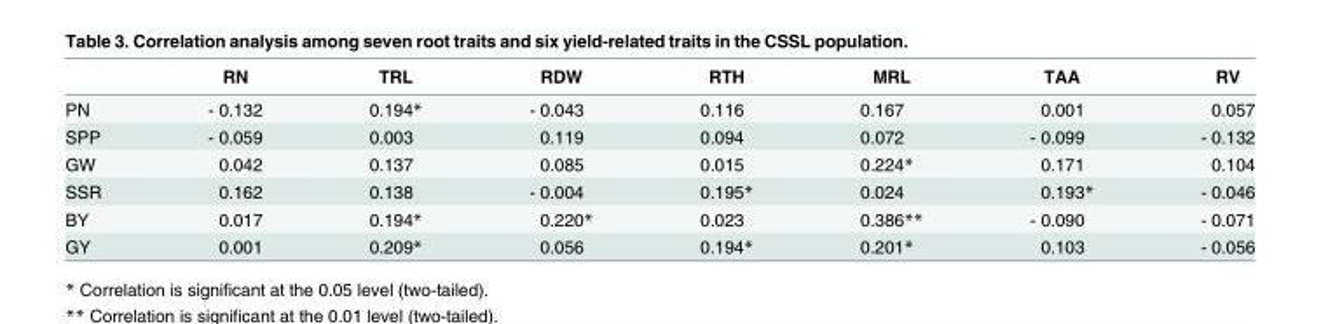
<table><thead><tr><td></td><td>RN</td><td>TRL</td><td>RDW</td><td>RTH</td><td>MRL</td><td>TAA</td><td>RV</td></tr></thead><tbody><tr><td>PN</td><td>- 0.132</td><td>0.194*</td><td>- 0.043</td><td>0.116</td><td>0.167</td><td>0.001</td><td>0.057</td></tr><tr><td>SPP</td><td>- 0.059</td><td>0.003</td><td>0.119</td><td>0.094</td><td>0.072</td><td>- 0.099</td><td>- 0.132</td></tr><tr><td>GW</td><td>0.042</td><td>0.137</td><td>0.085</td><td>0.015</td><td>0.224*</td><td>0.171</td><td>0.104</td></tr><tr><td>SSR</td><td>0.162</td><td>0.138</td><td>- 0.004</td><td>0.195*</td><td>0.024</td><td>0.193*</td><td>- 0.046</td></tr><tr><td>BY</td><td>0.017</td><td>0.194*</td><td>0.220*</td><td>0.023</td><td>0.386**</td><td>- 0.090</td><td>- 0.071</td></tr><tr><td>GY</td><td>0.001</td><td>0.209*</td><td>0.056</td><td>0.194*</td><td>0.201*</td><td>0.103</td><td>- 0.056</td></tr></tbody></table>